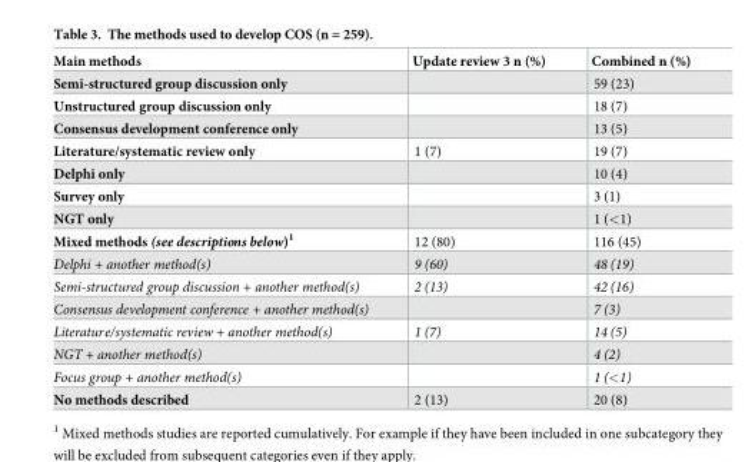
<table><thead><tr><td>Main methods</td><td>Update review 3 n (%)</td><td>Combined n (%)</td></tr></thead><tbody><tr><td>Semi-structured group discussion only</td><td></td><td>59 (23)</td></tr><tr><td>Unstructured group discussion only</td><td></td><td>18 (7)</td></tr><tr><td>Consensus development conference only</td><td></td><td>13 (5)</td></tr><tr><td>Literature/systematic review only</td><td>1 (7)</td><td>19 (7)</td></tr><tr><td>Delphi only</td><td></td><td>10 (4)</td></tr><tr><td>Survey only</td><td></td><td>3 (1)</td></tr><tr><td>NGT only</td><td></td><td>1 (&lt;1)</td></tr><tr><td>Mixed methods (see descriptions below)<sup>1</sup></td><td>12 (80)</td><td>116 (45)</td></tr><tr><td>Delphi + another method(s)</td><td>9 (60)</td><td>48 (19)</td></tr><tr><td>Semi-structured group discussion + another method(s)</td><td>2 (13)</td><td>42 (16)</td></tr><tr><td>Consensus development conference + another method(s)</td><td></td><td>7 (3)</td></tr><tr><td>Literature/systematic review + another method(s)</td><td>1 (7)</td><td>14 (5)</td></tr><tr><td>NGT + another method(s)</td><td></td><td>4 (2)</td></tr><tr><td>Focus group + another method(s)</td><td></td><td>1 (&lt;1)</td></tr><tr><td>No methods described</td><td>2 (13)</td><td>20 (8)</td></tr></tbody></table>